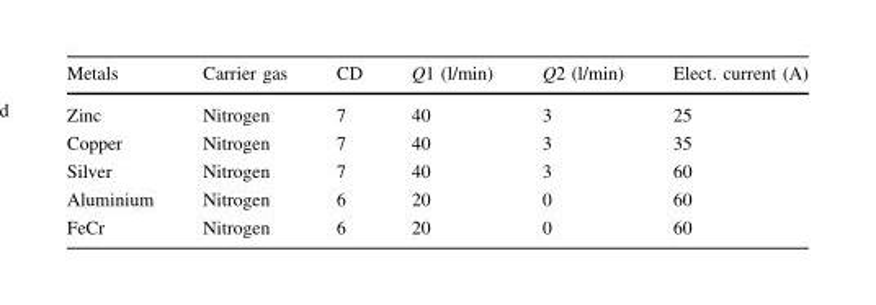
<table><thead><tr><td>Metals</td><td>Carrier gas</td><td>CD</td><td>Q1 (l/min)</td><td>Q2 (l/min)</td><td>Elect. current (A)</td></tr></thead><tbody><tr><td>Zinc</td><td>Nitrogen</td><td>7</td><td>40</td><td>3</td><td>25</td></tr><tr><td>Copper</td><td>Nitrogen</td><td>7</td><td>40</td><td>3</td><td>35</td></tr><tr><td>Silver</td><td>Nitrogen</td><td>7</td><td>40</td><td>3</td><td>60</td></tr><tr><td>Aluminium</td><td>Nitrogen</td><td>6</td><td>20</td><td>0</td><td>60</td></tr><tr><td>FeCr</td><td>Nitrogen</td><td>6</td><td>20</td><td>0</td><td>60</td></tr></tbody></table>